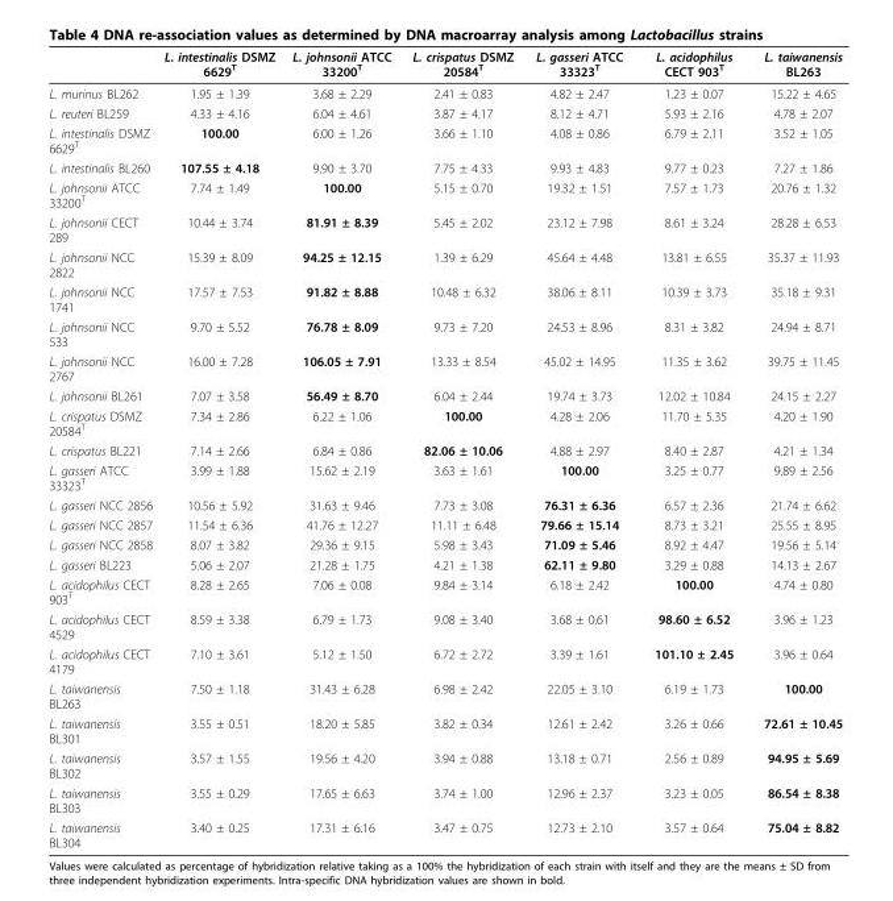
<table><thead><tr><td></td><td>L. intestinalis DSMZ 6629<sup>T</sup></td><td>L. johnsonii ATCC 33200<sup>T</sup></td><td>L. crispatus DSMZ 20584<sup>T</sup></td><td>L. gasseri ATCC 33323<sup>T</sup></td><td>L. acidophilus CECT 903<sup>T</sup></td><td>L. taiwanensis BL263</td></tr></thead><tbody><tr><td>L. murinus BL262</td><td>1.95 ± 1.39</td><td>3.68 ± 2.29</td><td>2.41 ± 0.83</td><td>4.82 ± 2.47</td><td>1.23 ± 0.07</td><td>15.22 ± 4.65</td></tr><tr><td>L. reuteri BL259</td><td>4.33 ± 4.16</td><td>6.04 ± 4.61</td><td>3.87 ± 4.17</td><td>8.12 ± 4.71</td><td>5.93 ± 2.16</td><td>4.78 ± 2.07</td></tr><tr><td>L. intestinalis DSMZ 6629<sup>T</sup></td><td>100.00</td><td>6.00 ± 1.26</td><td>3.66 ± 1.10</td><td>4.08 ± 0.86</td><td>6.79 ± 2.11</td><td>3.52 ± 1.05</td></tr><tr><td>L. intestinalis BL260</td><td>107.55 ± 4.18</td><td>9.90 ± 3.70</td><td>7.75 ± 4.33</td><td>9.93 ± 4.83</td><td>9.77 ± 0.23</td><td>7.27 ± 1.86</td></tr><tr><td>L. johnsonii ATCC 33200<sup>T</sup></td><td>7.74 ± 1.49</td><td>100.00</td><td>5.15 ± 0.70</td><td>19.32 ± 1.51</td><td>7.57 ± 1.73</td><td>20.76 ± 1.32</td></tr><tr><td>L. johnsonii CECT 289</td><td>10.44 ± 3.74</td><td>81.91 ± 8.39</td><td>5.45 ± 2.02</td><td>23.12 ± 7.98</td><td>8.61 ± 3.24</td><td>28.28 ± 6.53</td></tr><tr><td>L. johnsonii NCC 2822</td><td>15.39 ± 8.09</td><td>94.25 ± 12.15</td><td>1.39 ± 6.29</td><td>45.64 ± 4.48</td><td>13.81 ± 6.55</td><td>35.37 ± 11.93</td></tr><tr><td>L. johnsonii NCC 1741</td><td>17.57 ± 7.53</td><td>91.82 ± 8.88</td><td>10.48 ± 6.32</td><td>38.06 ± 8.11</td><td>10.39 ± 3.73</td><td>35.18 ± 9.31</td></tr><tr><td>L. johnsonii NCC 533</td><td>9.70 ± 5.52</td><td>76.78 ± 8.09</td><td>9.73 ± 7.20</td><td>24.53 ± 8.96</td><td>8.31 ± 3.82</td><td>24.94 ± 8.71</td></tr><tr><td>L. johnsonii NCC 2767</td><td>16.00 ± 7.28</td><td>106.05 ± 7.91</td><td>13.33 ± 8.54</td><td>45.02 ± 14.95</td><td>11.35 ± 3.62</td><td>39.75 ± 11.45</td></tr><tr><td>L. johnsonii BL261</td><td>7.07 ± 3.58</td><td>56.49 ± 8.70</td><td>6.04 ± 2.44</td><td>19.74 ± 3.73</td><td>12.02 ± 10.84</td><td>24.15 ± 2.27</td></tr><tr><td>L. crispatus DSMZ 20584<sup>T</sup></td><td>7.34 ± 2.86</td><td>6.22 ± 1.06</td><td>100.00</td><td>4.28 ± 2.06</td><td>11.70 ± 5.35</td><td>4.20 ± 1.90</td></tr><tr><td>L. crispatus BL221</td><td>7.14 ± 2.66</td><td>6.84 ± 0.86</td><td>82.06 ± 10.06</td><td>4.88 ± 2.97</td><td>8.40 ± 2.87</td><td>4.21 ± 1.34</td></tr><tr><td>L. gasseri ATCC 33323<sup>T</sup></td><td>3.99 ± 1.88</td><td>15.62 ± 2.19</td><td>3.63 ± 1.61</td><td>100.00</td><td>3.25 ± 0.77</td><td>9.89 ± 2.56</td></tr><tr><td>L. gasseri NCC 2856</td><td>10.56 ± 5.92</td><td>31.63 ± 9.46</td><td>7.73 ± 3.08</td><td>76.31 ± 6.36</td><td>6.57 ± 2.36</td><td>21.74 ± 6.62</td></tr><tr><td>L. gasseri NCC 2857</td><td>11.54 ± 6.36</td><td>41.76 ± 12.27</td><td>11.11 ± 6.48</td><td>79.66 ± 15.14</td><td>8.73 ± 3.21</td><td>25.55 ± 8.95</td></tr><tr><td>L. gasseri NCC 2858</td><td>8.07 ± 3.82</td><td>29.36 ± 9.15</td><td>5.98 ± 3.43</td><td>71.09 ± 5.46</td><td>8.92 ± 4.47</td><td>19.56 ± 5.14</td></tr><tr><td>L. gasseri BL223</td><td>5.06 ± 2.07</td><td>21.28 ± 1.75</td><td>4.21 ± 1.38</td><td>62.11 ± 9.80</td><td>3.29 ± 0.88</td><td>14.13 ± 2.67</td></tr><tr><td>L. acidophilus CECT 903<sup>T</sup></td><td>8.28 ± 2.65</td><td>7.06 ± 0.08</td><td>9.84 ± 3.14</td><td>6.18 ± 2.42</td><td>100.00</td><td>4.74 ± 0.80</td></tr><tr><td>L. acidophilus CECT 4529</td><td>8.59 ± 3.38</td><td>6.79 ± 1.73</td><td>9.08 ± 3.40</td><td>3.68 ± 0.61</td><td>98.60 ± 6.52</td><td>3.96 ± 1.23</td></tr><tr><td>L. acidophilus CECT 4179</td><td>7.10 ± 3.61</td><td>5.12 ± 1.50</td><td>6.72 ± 2.72</td><td>3.39 ± 1.61</td><td>101.10 ± 2.45</td><td>3.96 ± 0.64</td></tr><tr><td>L. taiwanensis BL263</td><td>7.50 ± 1.18</td><td>31.43 ± 6.28</td><td>6.98 ± 2.42</td><td>22.05 ± 3.10</td><td>6.19 ± 1.73</td><td>100.00</td></tr><tr><td>L. taiwanensis BL301</td><td>3.55 ± 0.51</td><td>18.20 ± 5.85</td><td>3.82 ± 0.34</td><td>12.61 ± 2.42</td><td>3.26 ± 0.66</td><td>72.61 ± 10.45</td></tr><tr><td>L. taiwanensis BL302</td><td>3.57 ± 1.55</td><td>19.56 ± 4.20</td><td>3.94 ± 0.88</td><td>13.18 ± 0.71</td><td>2.56 ± 0.89</td><td>94.95 ± 5.69</td></tr><tr><td>L. taiwanensis BL303</td><td>3.55 ± 0.29</td><td>17.65 ± 6.63</td><td>3.74 ± 1.00</td><td>12.96 ± 2.37</td><td>3.23 ± 0.05</td><td>86.54 ± 8.38</td></tr><tr><td>L. taiwanensis BL304</td><td>3.40 ± 0.25</td><td>17.31 ± 6.16</td><td>3.47 ± 0.75</td><td>12.73 ± 2.10</td><td>3.57 ± 0.64</td><td>75.04 ± 8.82</td></tr></tbody></table>